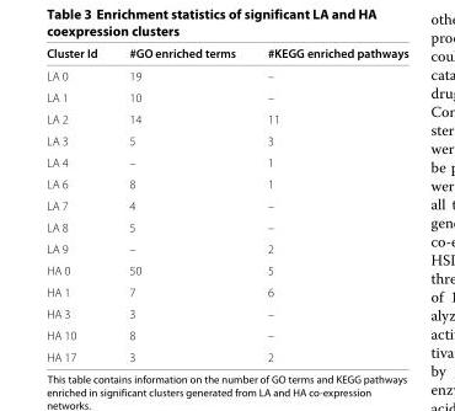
<table><thead><tr><td>Cluster Id</td><td>#GO enriched terms</td><td>#KEGG enriched pathways</td></tr></thead><tbody><tr><td>LA 0</td><td>19</td><td>–</td></tr><tr><td>LA 1</td><td>10</td><td>–</td></tr><tr><td>LA 2</td><td>14</td><td>11</td></tr><tr><td>LA 3</td><td>5</td><td>3</td></tr><tr><td>LA 4</td><td>–</td><td>1</td></tr><tr><td>LA 6</td><td>8</td><td>1</td></tr><tr><td>LA 7</td><td>4</td><td>–</td></tr><tr><td>LA 8</td><td>5</td><td>–</td></tr><tr><td>LA 9</td><td>–</td><td>2</td></tr><tr><td>HA 0</td><td>50</td><td>5</td></tr><tr><td>HA 1</td><td>7</td><td>6</td></tr><tr><td>HA 3</td><td>3</td><td>–</td></tr><tr><td>HA 10</td><td>8</td><td>–</td></tr><tr><td>HA 17</td><td>3</td><td>2</td></tr></tbody></table>